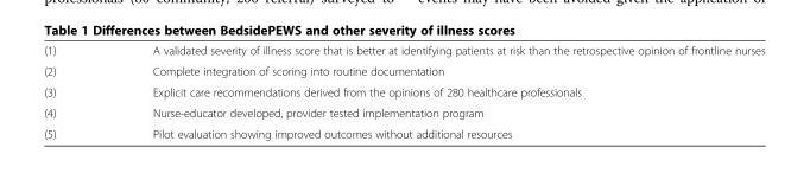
<table><tbody><tr><td>(1)</td><td>A validated severity of illness score that is better at identifying patients at risk than the retrospective opinion of frontline nurses</td></tr><tr><td>(2)</td><td>Complete integration of scoring into routine documentation</td></tr><tr><td>(3)</td><td>Explicit care recommendations derived from the opinions of 280 healthcare professionals</td></tr><tr><td>(4)</td><td>Nurse-educator developed, provider tested implementation program</td></tr><tr><td>(5)</td><td>Pilot evaluation showing improved outcomes without additional resources</td></tr></tbody></table>